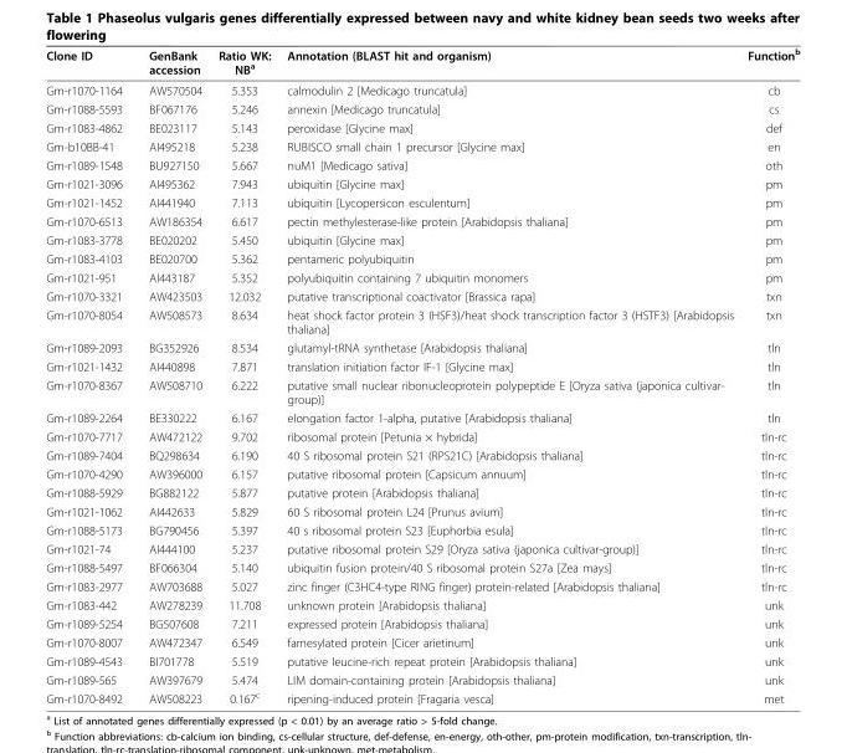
<table><thead><tr><td>Clone ID</td><td>GenBank accession</td><td>Ratio WK: NB<sup>a</sup></td><td>Annotation (BLAST hit and organism)</td><td>Function<sup>b</sup></td></tr></thead><tbody><tr><td>Gm-r1070-1164</td><td>AW570504</td><td>5.353</td><td>calmodulin 2 [Medicago truncatula]</td><td>cb</td></tr><tr><td>Gm-r1088-5593</td><td>BF067176</td><td>5.246</td><td>annexin [Medicago truncatula]</td><td>cs</td></tr><tr><td>Gm-r1083-4862</td><td>BE023117</td><td>5.143</td><td>peroxidase [Glycine max]</td><td>def</td></tr><tr><td>Gm-b10BB-41</td><td>AI495218</td><td>5.238</td><td>RUBISCO small chain 1 precursor [Glycine max]</td><td>en</td></tr><tr><td>Gm-r1089-1548</td><td>BU927150</td><td>5.667</td><td>nuM1 [Medicago sativa]</td><td>oth</td></tr><tr><td>Gm-r1021-3096</td><td>AI495362</td><td>7.943</td><td>ubiquitin [Glycine max]</td><td>pm</td></tr><tr><td>Gm-r1021-1452</td><td>AI441940</td><td>7.113</td><td>ubiquitin [Lycopersicon esculentum]</td><td>pm</td></tr><tr><td>Gm-r1070-6513</td><td>AW186354</td><td>6.617</td><td>pectin methylesterase-like protein [Arabidopsis thaliana]</td><td>pm</td></tr><tr><td>Gm-r1083-3778</td><td>BE020202</td><td>5.450</td><td>ubiquitin [Glycine max]</td><td>pm</td></tr><tr><td>Gm-r1083-4103</td><td>BE020700</td><td>5.362</td><td>pentameric polyubiquitin</td><td>pm</td></tr><tr><td>Gm-r1021-951</td><td>AI443187</td><td>5.352</td><td>polyubiquitin containing 7 ubiquitin monomers</td><td>pm</td></tr><tr><td>Gm-r1070-3321</td><td>AW423503</td><td>12.032</td><td>putative transcriptional coactivator [Brassica rapa]</td><td>txn</td></tr><tr><td>Gm-r1070-8054</td><td>AW508573</td><td>8.634</td><td>heat shock factor protein 3 (HSF3)/heat shock transcription factor 3 (HSTF3) [Arabidopsis thaliana]</td><td>txn</td></tr><tr><td>Gm-r1089-2093</td><td>BG352926</td><td>8.534</td><td>glutamyl-tRNA synthetase [Arabidopsis thaliana]</td><td>tln</td></tr><tr><td>Gm-r1021-1432</td><td>AI440898</td><td>7.871</td><td>translation initiation factor IF-1 [Glycine max]</td><td>tln</td></tr><tr><td>Gm-r1070-8367</td><td>AW508710</td><td>6.222</td><td>putative small nuclear ribonucleoprotein polypeptide E [Oryza sativa (japonica cultivar- group)]</td><td>tln</td></tr><tr><td>Gm-r1089-2264</td><td>BE330222</td><td>6.167</td><td>elongation factor 1-alpha, putative [Arabidopsis thaliana]</td><td>tln</td></tr><tr><td>Gm-r1070-7717</td><td>AW472122</td><td>9.702</td><td>ribosomal protein [Petunia × hybrida]</td><td>tln-rc</td></tr><tr><td>Gm-r1089-7404</td><td>BQ298634</td><td>6.190</td><td>40 S ribosomal protein S21 (RPS21C) [Arabidopsis thaliana]</td><td>tln-rc</td></tr><tr><td>Gm-r1070-4290</td><td>AW396000</td><td>6.157</td><td>putative ribosomal protein [Capsicum annuum]</td><td>tln-rc</td></tr><tr><td>Gm-r1088-5929</td><td>BG882122</td><td>5.877</td><td>putative protein [Arabidopsis thaliana]</td><td>tln-rc</td></tr><tr><td>Gm-r1021-1062</td><td>AI442633</td><td>5.829</td><td>60 S ribosomal protein L24 [Prunus avium]</td><td>tln-rc</td></tr><tr><td>Gm-r1088-5173</td><td>BG790456</td><td>5.397</td><td>40 s ribosomal protein S23 [Euphorbia esula]</td><td>tln-rc</td></tr><tr><td>Gm-r1021-74</td><td>AI444100</td><td>5.237</td><td>putative ribosomal protein S29 [Oryza sativa (japonica cultivar-group)]</td><td>tln-rc</td></tr><tr><td>Gm-r1088-5497</td><td>BF066304</td><td>5.140</td><td>ubiquitin fusion protein/40 S ribosomal protein S27a [Zea mays]</td><td>tln-rc</td></tr><tr><td>Gm-r1083-2977</td><td>AW703688</td><td>5.027</td><td>zinc finger (C3HC4-type RING finger) protein-related [Arabidopsis thaliana]</td><td>tln-rc</td></tr><tr><td>Gm-r1083-442</td><td>AW278239</td><td>11.708</td><td>unknown protein [Arabidopsis thaliana]</td><td>unk</td></tr><tr><td>Gm-r1089-5254</td><td>BG507608</td><td>7.211</td><td>expressed protein [Arabidopsis thaliana]</td><td>unk</td></tr><tr><td>Gm-r1070-8007</td><td>AW472347</td><td>6.549</td><td>farnesylated protein [Cicer arietinum]</td><td>unk</td></tr><tr><td>Gm-r1089-4543</td><td>BI701778</td><td>5.519</td><td>putative leucine-rich repeat protein [Arabidopsis thaliana]</td><td>unk</td></tr><tr><td>Gm-r1089-565</td><td>AW397679</td><td>5.474</td><td>LIM domain-containing protein [Arabidopsis thaliana]</td><td>unk</td></tr><tr><td>Gm-r1070-8492</td><td>AW508223</td><td>0.167<sup>c</sup></td><td>ripening-induced protein [Fragaria vesca]</td><td>met</td></tr></tbody></table>